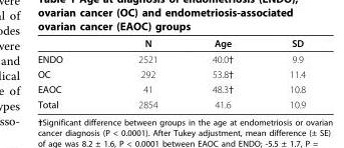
<table><thead><tr><td></td><td>N</td><td>Age</td><td>SD</td></tr></thead><tbody><tr><td>ENDO</td><td>2521</td><td>40.0†</td><td>9.9</td></tr><tr><td>OC</td><td>292</td><td>53.8†</td><td>11.4</td></tr><tr><td>EAOC</td><td>41</td><td>48.3†</td><td>10.8</td></tr><tr><td>Total</td><td>2854</td><td>41.6</td><td>10.9</td></tr></tbody></table>